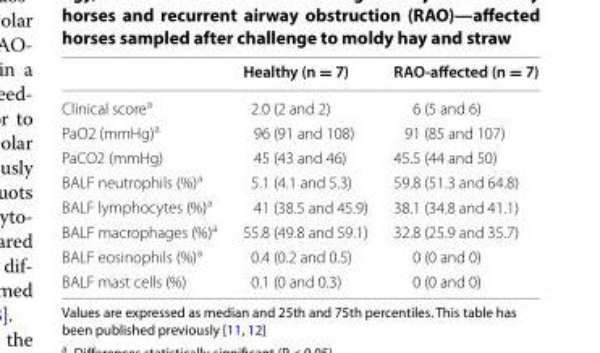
<table><thead><tr><td></td><td>Healthy (n = 7)</td><td>RAO-affected (n = 7)</td></tr></thead><tbody><tr><td>Clinical score<sup>a</sup></td><td>2.0 (2 and 2)</td><td>6 (5 and 6)</td></tr><tr><td>PaO2 (mmHg)<sup>a</sup></td><td>96 (91 and 108)</td><td>91 (85 and 107)</td></tr><tr><td>PaCO2 (mmHg)</td><td>45 (43 and 46)</td><td>45.5 (44 and 50)</td></tr><tr><td>BALF neutrophils (%)<sup>a</sup></td><td>5.1 (4.1 and 5.3)</td><td>59.8 (51.3 and 64.8)</td></tr><tr><td>BALF lymphocytes (%)<sup>a</sup></td><td>41 (38.5 and 45.9)</td><td>38.1 (34.8 and 41.1)</td></tr><tr><td>BALF macrophages (%)<sup>a</sup></td><td>55.8 (49.8 and 59.1)</td><td>32.8 (25.9 and 35.7)</td></tr><tr><td>BALF eosinophils (%)<sup>a</sup></td><td>0.4 (0.2 and 0.5)</td><td>0 (0 and 0)</td></tr><tr><td>BALF mast cells (%)</td><td>0.1 (0 and 0.3)</td><td>0 (0 and 0)</td></tr></tbody></table>